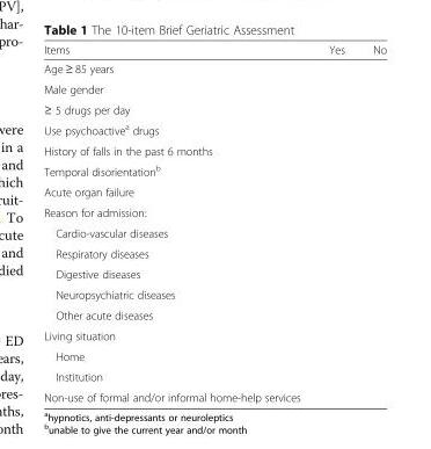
<table><thead><tr><td>Items</td><td>Yes</td><td>No</td></tr></thead><tbody><tr><td colspan="3">Age ≥ 85 years</td></tr><tr><td colspan="3">Male gender</td></tr><tr><td colspan="3">≥ 5 drugs per day</td></tr><tr><td colspan="3">Use psychoactive<sup>a</sup> drugs</td></tr><tr><td colspan="3">History of falls in the past 6 months</td></tr><tr><td colspan="3">Temporal disorientation<sup>b</sup></td></tr><tr><td colspan="3">Acute organ failure</td></tr><tr><td colspan="3">Reason for admission:</td></tr><tr><td colspan="3">Cardio-vascular diseases</td></tr><tr><td colspan="3">Respiratory diseases</td></tr><tr><td colspan="3">Digestive diseases</td></tr><tr><td colspan="3">Neuropsychiatric diseases</td></tr><tr><td colspan="3">Other acute diseases</td></tr><tr><td colspan="3">Living situation</td></tr><tr><td colspan="3">Home</td></tr><tr><td colspan="3">Institution</td></tr><tr><td>Non-use of formal and/or informal home-help services</td><td></td><td></td></tr></tbody></table>